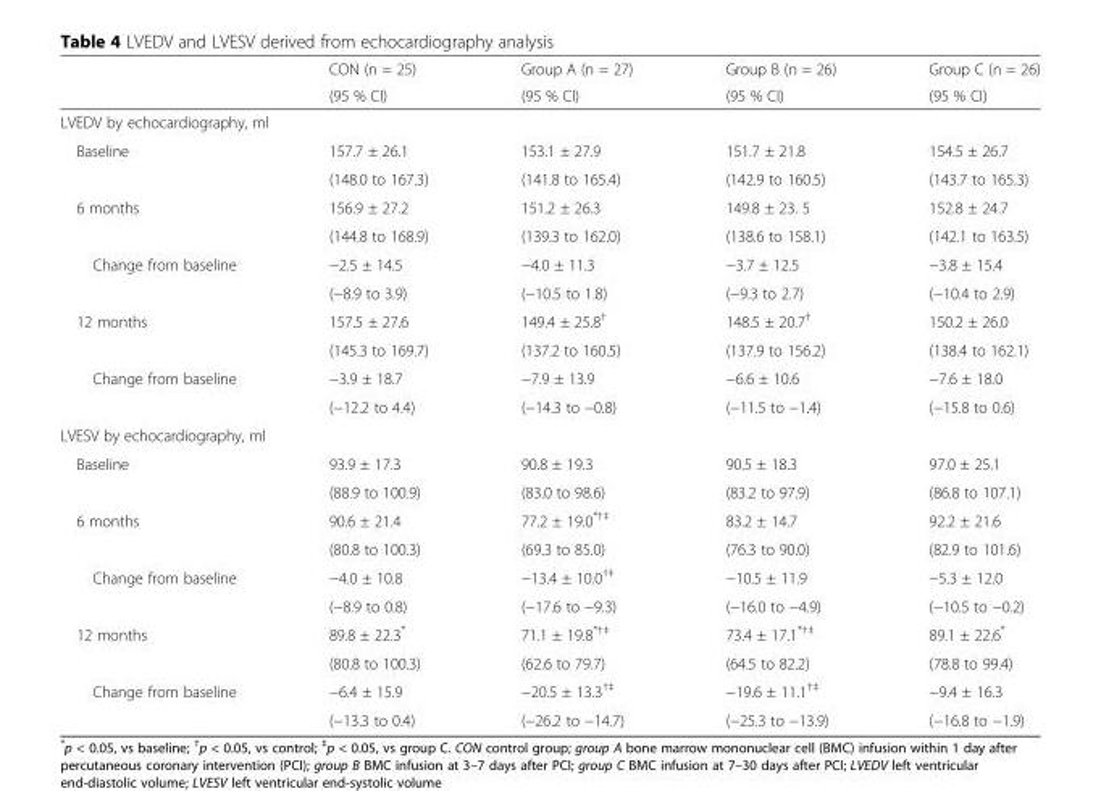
<table><thead><tr><td rowspan="2"></td><td rowspan="2">CON (n = 25) (95 % CI)</td><td rowspan="2">Group A (n = 27) (95 % CI)</td><td rowspan="2">Group B (n = 26) (95 % CI)</td><td rowspan="2">Group C (n = 26) (95 % CI)</td></tr><tr></tr></thead><tbody><tr><td colspan="5">LVEDV by echocardiography, ml</td></tr><tr><td rowspan="2">Baseline</td><td>157.7 ± 26.1</td><td>153.1 ± 27.9</td><td>151.7 ± 21.8</td><td>154.5 ± 26.7</td></tr><tr><td>(148.0 to 167.3)</td><td>(141.8 to 165.4)</td><td>(142.9 to 160.5)</td><td>(143.7 to 165.3)</td></tr><tr><td rowspan="2">6 months</td><td>156.9 ± 27.2</td><td>151.2 ± 26.3</td><td>149.8 ± 23. 5</td><td>152.8 ± 24.7</td></tr><tr><td>(144.8 to 168.9)</td><td>(139.3 to 162.0)</td><td>(138.6 to 158.1)</td><td>(142.1 to 163.5)</td></tr><tr><td rowspan="2">Change from baseline</td><td>−2.5 ± 14.5</td><td>−4.0 ± 11.3</td><td>−3.7 ± 12.5</td><td>−3.8 ± 15.4</td></tr><tr><td>(−8.9 to 3.9)</td><td>(−10.5 to 1.8)</td><td>(−9.3 to 2.7)</td><td>(−10.4 to 2.9)</td></tr><tr><td rowspan="2">12 months</td><td>157.5 ± 27.6</td><td>149.4 ± 25.8<sup>†</sup></td><td>148.5 ± 20.7<sup>†</sup></td><td>150.2 ± 26.0</td></tr><tr><td>(145.3 to 169.7)</td><td>(137.2 to 160.5)</td><td>(137.9 to 156.2)</td><td>(138.4 to 162.1)</td></tr><tr><td rowspan="2">Change from baseline</td><td>−3.9 ± 18.7</td><td>−7.9 ± 13.9</td><td>−6.6 ± 10.6</td><td>−7.6 ± 18.0</td></tr><tr><td>(−12.2 to 4.4)</td><td>(−14.3 to −0.8)</td><td>(−11.5 to −1.4)</td><td>(−15.8 to 0.6)</td></tr><tr><td colspan="5">LVESV by echocardiography, ml</td></tr><tr><td rowspan="2">Baseline</td><td>93.9 ± 17.3</td><td>90.8 ± 19.3</td><td>90.5 ± 18.3</td><td>97.0 ± 25.1</td></tr><tr><td>(88.9 to 100.9)</td><td>(83.0 to 98.6)</td><td>(83.2 to 97.9)</td><td>(86.8 to 107.1)</td></tr><tr><td rowspan="2">6 months</td><td>90.6 ± 21.4</td><td>77.2 ± 19.0<sup>*†‡</sup></td><td>83.2 ± 14.7</td><td>92.2 ± 21.6</td></tr><tr><td>(80.8 to 100.3)</td><td>(69.3 to 85.0)</td><td>(76.3 to 90.0)</td><td>(82.9 to 101.6)</td></tr><tr><td rowspan="2">Change from baseline</td><td>−4.0 ± 10.8</td><td>−13.4 ± 10.0<sup>†‡</sup></td><td>−10.5 ± 11.9</td><td>−5.3 ± 12.0</td></tr><tr><td>(−8.9 to 0.8)</td><td>(−17.6 to −9.3)</td><td>(−16.0 to −4.9)</td><td>(−10.5 to −0.2)</td></tr><tr><td rowspan="2">12 months</td><td>89.8 ± 22.3*</td><td>71.1 ± 19.8<sup>*†‡</sup></td><td>73.4 ± 17.1<sup>*†‡</sup></td><td>89.1 ± 22.6*</td></tr><tr><td>(80.8 to 100.3)</td><td>(62.6 to 79.7)</td><td>(64.5 to 82.2)</td><td>(78.8 to 99.4)</td></tr><tr><td rowspan="2">Change from baseline</td><td>−6.4 ± 15.9</td><td>−20.5 ± 13.3<sup>†‡</sup></td><td>−19.6 ± 11.1<sup>†‡</sup></td><td>−9.4 ± 16.3</td></tr><tr><td>(−13.3 to 0.4)</td><td>(−26.2 to −14.7)</td><td>(−25.3 to −13.9)</td><td>(−16.8 to −1.9)</td></tr></tbody></table>